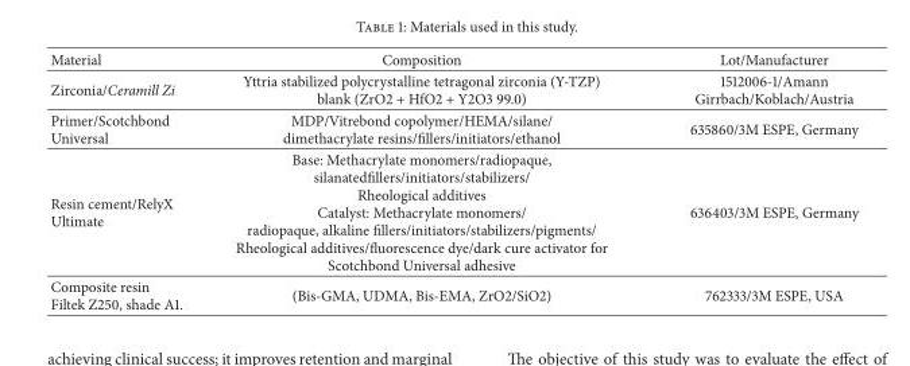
<table><thead><tr><td>Material</td><td>Composition</td><td>Lot/Manufacturer</td></tr></thead><tbody><tr><td>Zirconia/Ceramill Zi</td><td>Yttria stabilized polycrystalline tetragonal zirconia (Y-TZP) blank (ZrO2 + HfO2 + Y2O3 99.0)</td><td>1512006-1/Amann Girrbach/Koblach/Austria</td></tr><tr><td>Primer/Scotchbond Universal</td><td>MDP/Vitrebond copolymer/HEMA/silane/ dimethacrylate resins/fillers/initiators/ethanol</td><td>635860/3M ESPE, Germany</td></tr><tr><td>Resin cement/RelyX Ultimate</td><td>Base: Methacrylate monomers/radiopaque, silanatedfillers/initiators/stabilizers/ Rheological additives Catalyst: Methacrylate monomers/ radiopaque, alkaline fillers/initiators/stabilizers/pigments/ Rheological additives/fluorescence dye/dark cure activator for Scotchbond Universal adhesive</td><td>636403/3M ESPE, Germany</td></tr><tr><td>Composite resin Filtek Z250, shade A1.</td><td>(Bis-GMA, UDMA, Bis-EMA, ZrO2/SiO2)</td><td>762333/3M ESPE, USA</td></tr></tbody></table>